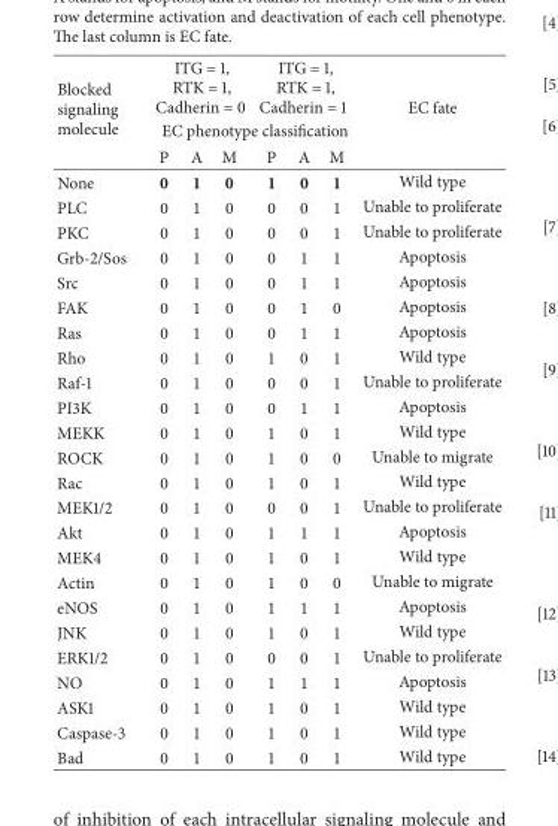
<table><thead><tr><td rowspan="3">Blocked signaling molecule</td><td colspan="3">ITG = 1, RTK = 1, Cadherin = 0</td><td colspan="3">ITG = 1, RTK = 1, Cadherin = 1</td><td rowspan="3">EC fate</td></tr><tr><td colspan="6">EC phenotype classification</td></tr><tr><td>P</td><td>A</td><td>M</td><td>P</td><td>A</td><td>M</td></tr></thead><tbody><tr><td>None</td><td>0</td><td>1</td><td>0</td><td>1</td><td>0</td><td>1</td><td>Wild type</td></tr><tr><td>PLC</td><td>0</td><td>1</td><td>0</td><td>0</td><td>0</td><td>1</td><td>Unable to proliferate</td></tr><tr><td>PKC</td><td>0</td><td>1</td><td>0</td><td>0</td><td>0</td><td>1</td><td>Unable to proliferate</td></tr><tr><td>Grb-2/Sos</td><td>0</td><td>1</td><td>0</td><td>0</td><td>1</td><td>1</td><td>Apoptosis</td></tr><tr><td>Src</td><td>0</td><td>1</td><td>0</td><td>0</td><td>1</td><td>1</td><td>Apoptosis</td></tr><tr><td>FAK</td><td>0</td><td>1</td><td>0</td><td>0</td><td>1</td><td>0</td><td>Apoptosis</td></tr><tr><td>Ras</td><td>0</td><td>1</td><td>0</td><td>0</td><td>1</td><td>1</td><td>Apoptosis</td></tr><tr><td>Rho</td><td>0</td><td>1</td><td>0</td><td>1</td><td>0</td><td>1</td><td>Wild type</td></tr><tr><td>Raf-1</td><td>0</td><td>1</td><td>0</td><td>0</td><td>0</td><td>1</td><td>Unable to proliferate</td></tr><tr><td>PI3K</td><td>0</td><td>1</td><td>0</td><td>0</td><td>1</td><td>1</td><td>Apoptosis</td></tr><tr><td>MEKK</td><td>0</td><td>1</td><td>0</td><td>1</td><td>0</td><td>1</td><td>Wild type</td></tr><tr><td>ROCK</td><td>0</td><td>1</td><td>0</td><td>1</td><td>0</td><td>0</td><td>Unable to migrate</td></tr><tr><td>Rac</td><td>0</td><td>1</td><td>0</td><td>1</td><td>0</td><td>1</td><td>Wild type</td></tr><tr><td>MEK1/2</td><td>0</td><td>1</td><td>0</td><td>0</td><td>0</td><td>1</td><td>Unable to proliferate</td></tr><tr><td>Akt</td><td>0</td><td>1</td><td>0</td><td>1</td><td>1</td><td>1</td><td>Apoptosis</td></tr><tr><td>MEK4</td><td>0</td><td>1</td><td>0</td><td>1</td><td>0</td><td>1</td><td>Wild type</td></tr><tr><td>Actin</td><td>0</td><td>1</td><td>0</td><td>1</td><td>0</td><td>0</td><td>Unable to migrate</td></tr><tr><td>eNOS</td><td>0</td><td>1</td><td>0</td><td>1</td><td>1</td><td>1</td><td>Apoptosis</td></tr><tr><td>JNK</td><td>0</td><td>1</td><td>0</td><td>1</td><td>0</td><td>1</td><td>Wild type</td></tr><tr><td>ERK1/2</td><td>0</td><td>1</td><td>0</td><td>0</td><td>0</td><td>1</td><td>Unable to proliferate</td></tr><tr><td>NO</td><td>0</td><td>1</td><td>0</td><td>1</td><td>1</td><td>1</td><td>Apoptosis</td></tr><tr><td>ASK1</td><td>0</td><td>1</td><td>0</td><td>1</td><td>0</td><td>1</td><td>Wild type</td></tr><tr><td>Caspase-3</td><td>0</td><td>1</td><td>0</td><td>1</td><td>0</td><td>1</td><td>Wild type</td></tr><tr><td>Bad</td><td>0</td><td>1</td><td>0</td><td>1</td><td>0</td><td>1</td><td>Wild type</td></tr></tbody></table>